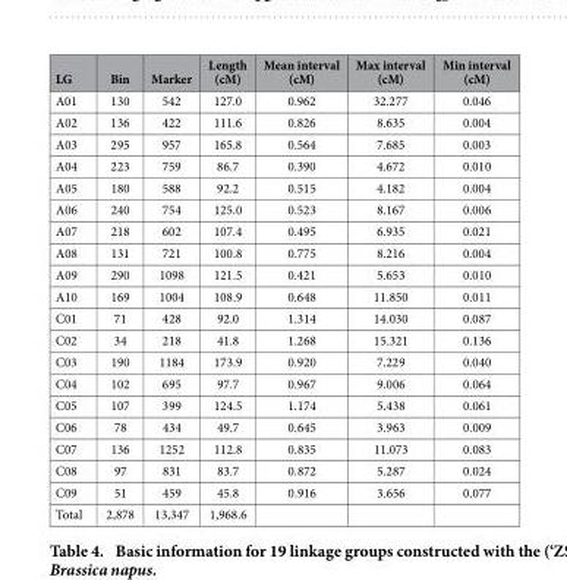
<table><thead><tr><td>LG</td><td>Bin</td><td>Marker</td><td>Length (cM)</td><td>Mean interval (cM)</td><td>Max interval (cM)</td><td>Min interval (cM)</td></tr></thead><tbody><tr><td>A01</td><td>130</td><td>542</td><td>127.0</td><td>0.962</td><td>32.277</td><td>0.046</td></tr><tr><td>A02</td><td>136</td><td>422</td><td>111.6</td><td>0.826</td><td>8.635</td><td>0.004</td></tr><tr><td>A03</td><td>295</td><td>957</td><td>165.8</td><td>0.564</td><td>7.685</td><td>0.003</td></tr><tr><td>A04</td><td>223</td><td>759</td><td>86.7</td><td>0.390</td><td>4.672</td><td>0.010</td></tr><tr><td>A05</td><td>180</td><td>588</td><td>92.2</td><td>0.515</td><td>4.182</td><td>0.004</td></tr><tr><td>A06</td><td>240</td><td>754</td><td>125.0</td><td>0.523</td><td>8.167</td><td>0.006</td></tr><tr><td>A07</td><td>218</td><td>602</td><td>107.4</td><td>0.495</td><td>6.935</td><td>0.021</td></tr><tr><td>A08</td><td>131</td><td>721</td><td>100.8</td><td>0.775</td><td>8.216</td><td>0.004</td></tr><tr><td>A09</td><td>290</td><td>1098</td><td>121.5</td><td>0.421</td><td>5.653</td><td>0.010</td></tr><tr><td>A10</td><td>169</td><td>1004</td><td>108.9</td><td>0.648</td><td>11.850</td><td>0.011</td></tr><tr><td>C01</td><td>71</td><td>428</td><td>92.0</td><td>1.314</td><td>14.030</td><td>0.087</td></tr><tr><td>C02</td><td>34</td><td>218</td><td>41.8</td><td>1.268</td><td>15.321</td><td>0.136</td></tr><tr><td>C03</td><td>190</td><td>1184</td><td>173.9</td><td>0.920</td><td>7.229</td><td>0.040</td></tr><tr><td>C04</td><td>102</td><td>695</td><td>97.7</td><td>0.967</td><td>9.006</td><td>0.064</td></tr><tr><td>C05</td><td>107</td><td>399</td><td>124.5</td><td>1.174</td><td>5.438</td><td>0.061</td></tr><tr><td>C06</td><td>78</td><td>434</td><td>49.7</td><td>0.645</td><td>3.963</td><td>0.009</td></tr><tr><td>C07</td><td>136</td><td>1252</td><td>112.8</td><td>0.835</td><td>11.073</td><td>0.083</td></tr><tr><td>C08</td><td>97</td><td>831</td><td>83.7</td><td>0.872</td><td>5.287</td><td>0.024</td></tr><tr><td>C09</td><td>51</td><td>459</td><td>45.8</td><td>0.916</td><td>3.656</td><td>0.077</td></tr><tr><td>Total</td><td>2,878</td><td>13,347</td><td>1,968.6</td><td></td><td></td><td></td></tr></tbody></table>